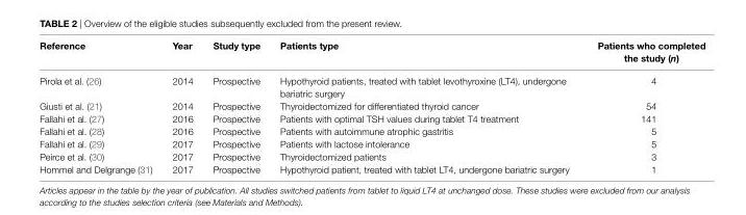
<table><thead><tr><td>Reference</td><td>year</td><td>Study type</td><td>Patients type</td><td>Patients who completed the study (n)</td></tr></thead><tbody><tr><td>Pirola et al. (26)</td><td>2014</td><td>Prospective</td><td>Hypothyroid patients, treated with tablet levothyroxine (LT4), undergone bariatric surgery</td><td>4</td></tr><tr><td>Giusti et al. (21)</td><td>2014</td><td>Prospective</td><td>Thyroidectomized for differentiated thyroid cancer</td><td>54</td></tr><tr><td>Fallahi et al. (27)</td><td>2016</td><td>Prospective</td><td>Patients with optimal TSH values during tablet T4 treatment</td><td>141</td></tr><tr><td>Fallahi et al. (28)</td><td>2016</td><td>Prospective</td><td>Patients with autoimmune atrophic gastritis</td><td>5</td></tr><tr><td>Fallahi et al. (29)</td><td>2017</td><td>Prospective</td><td>Patients with lactose intolerance</td><td>5</td></tr><tr><td>Peirce et al. (30)</td><td>2017</td><td>Prospective</td><td>Thyroidectomized patients</td><td>3</td></tr><tr><td>Hommel and Delgrange (31)</td><td>2017</td><td>Prospective</td><td>Hypothyroid patient, treated with tablet LT4, undergone bariatric surgery</td><td>1</td></tr></tbody></table>